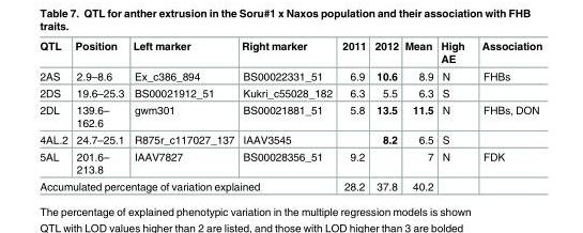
<table><thead><tr><td>QTL</td><td>Position</td><td>Left marker</td><td>Right marker</td><td>2011</td><td>2012</td><td>Mean</td><td>High AE</td><td>Association</td></tr></thead><tbody><tr><td>2AS</td><td>2.9–8.6</td><td>Ex_c386_894</td><td>BS00022331_51</td><td>6.9</td><td>10.6</td><td>8.9</td><td>N</td><td>FHBs</td></tr><tr><td>2DS</td><td>19.6–25.3</td><td>BS00021912_51</td><td>Kukri_c55028_182</td><td>6.3</td><td>5.5</td><td>6.3</td><td>S</td><td></td></tr><tr><td>2DL</td><td>139.6– 162.6</td><td>gwm301</td><td>BS00021881_51</td><td>5.8</td><td>13.5</td><td>11.5</td><td>N</td><td>FHBs, DON</td></tr><tr><td>4AL.2</td><td>24.7–25.1</td><td>R875r_c117027_137</td><td>IAAV3545</td><td></td><td>8.2</td><td>6.5</td><td>S</td><td></td></tr><tr><td>5AL</td><td>201.6– 213.8</td><td>IAAV7827</td><td>BS00028356_51</td><td>9.2</td><td></td><td>7</td><td>N</td><td>FDK</td></tr><tr><td colspan="4">Accumulated percentage of variation explained</td><td>28.2</td><td>37.8</td><td>40.2</td><td></td><td></td></tr></tbody></table>